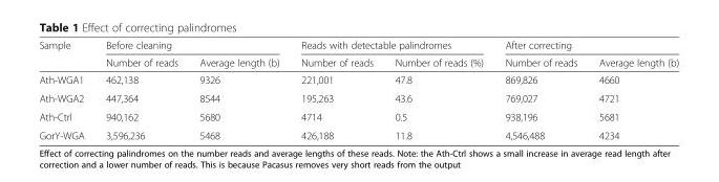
<table><thead><tr><td rowspan="2">Sample</td><td colspan="2">Before cleaning</td><td colspan="2">Reads with detectable palindromes</td><td colspan="2">After correcting</td></tr><tr><td>Number of reads</td><td>Average length (b)</td><td>Number of reads</td><td>Number of reads (%)</td><td>Number of reads</td><td>Average length (b)</td></tr></thead><tbody><tr><td>Ath-WGA1</td><td>462,138</td><td>9326</td><td>221,001</td><td>47.8</td><td>869,826</td><td>4660</td></tr><tr><td>Ath-WGA2</td><td>447,364</td><td>8544</td><td>195,263</td><td>43.6</td><td>769,027</td><td>4721</td></tr><tr><td>Ath-Ctrl</td><td>940,162</td><td>5680</td><td>4714</td><td>0.5</td><td>938,196</td><td>5681</td></tr><tr><td>GorY-WGA</td><td>3,596,236</td><td>5468</td><td>426,188</td><td>11.8</td><td>4,546,488</td><td>4234</td></tr></tbody></table>